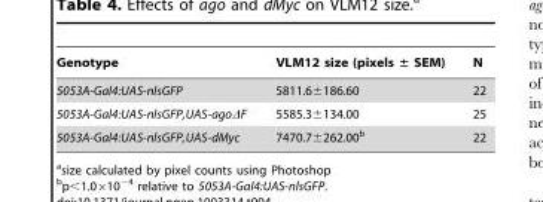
<table><thead><tr><td>Genotype</td><td>VLM12 size (pixels ± SEM)</td><td>N</td></tr></thead><tbody><tr><td>5053A-Gal4:UAS-nlsGFP</td><td>5811.6±186.60</td><td>22</td></tr><tr><td>5053A-Gal4:UAS-nlsGFP,UAS-agoΔF</td><td>5585.3±134.00</td><td>25</td></tr><tr><td>5053A-Gal4:UAS-nlsGFP,UAS-dMyc</td><td>7470.7±262.00<sup>b</sup></td><td>22</td></tr></tbody></table>